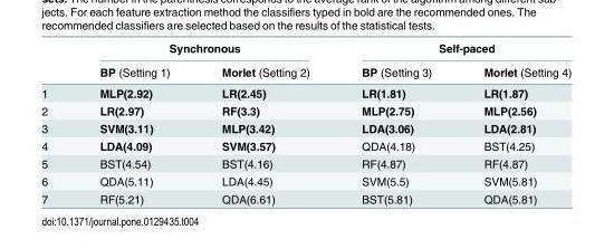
<table><thead><tr><td rowspan="2"></td><td colspan="2">Synchronous</td><td colspan="2">Self-paced</td></tr><tr><td>BP (Setting 1)</td><td>Morlet (Setting 2)</td><td>BP (Setting 3)</td><td>Morlet (Setting 4)</td></tr></thead><tbody><tr><td>1</td><td>MLP(2.92)</td><td>LR(2.45)</td><td>LR(1.81)</td><td>LR(1.87)</td></tr><tr><td>2</td><td>LR(2.97)</td><td>RF(3.3)</td><td>MLP(2.75)</td><td>MLP(2.56)</td></tr><tr><td>3</td><td>SVM(3.11)</td><td>MLP(3.42)</td><td>LDA(3.06)</td><td>LDA(2.81)</td></tr><tr><td>4</td><td>LDA(4.09)</td><td>SVM(3.57)</td><td>QDA(4.18)</td><td>BST(4.25)</td></tr><tr><td>5</td><td>BST(4.54)</td><td>BST(4.16)</td><td>RF(4.87)</td><td>RF(4.87)</td></tr><tr><td>6</td><td>QDA(5.11)</td><td>LDA(4.45)</td><td>SVM(5.5)</td><td>SVM(5.81)</td></tr><tr><td>7</td><td>RF(5.21)</td><td>QDA(6.61)</td><td>BST(5.81)</td><td>QDA(5.81)</td></tr></tbody></table>